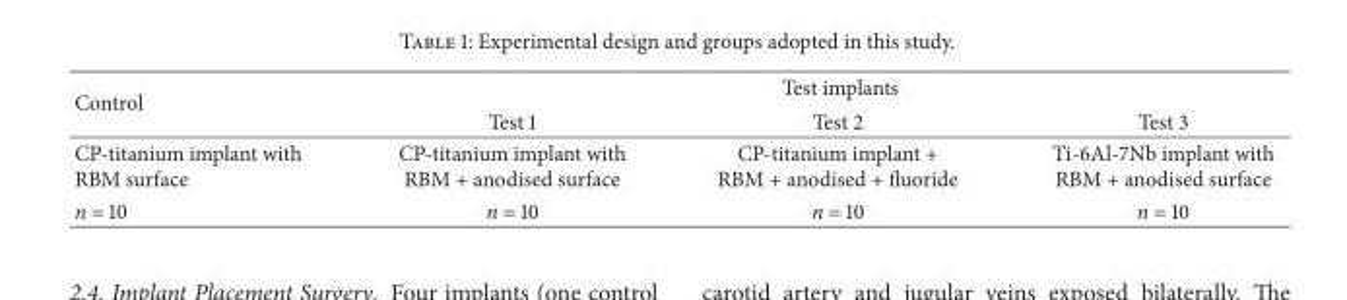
<table><thead><tr><td rowspan="2">Control</td><td colspan="3">Test implants</td></tr><tr><td>Test 1</td><td>Test 2</td><td>Test 3</td></tr></thead><tbody><tr><td>CP-titanium implant with RBM surface</td><td>CP-titanium implant with RBM + anodised surface</td><td>CP-titanium implant + RBM + anodised + fluoride</td><td>Ti-6Al-7Nb implant with RBM + anodised surface</td></tr><tr><td>n = 10</td><td>n = 10</td><td>n = 10</td><td>n = 10</td></tr></tbody></table>